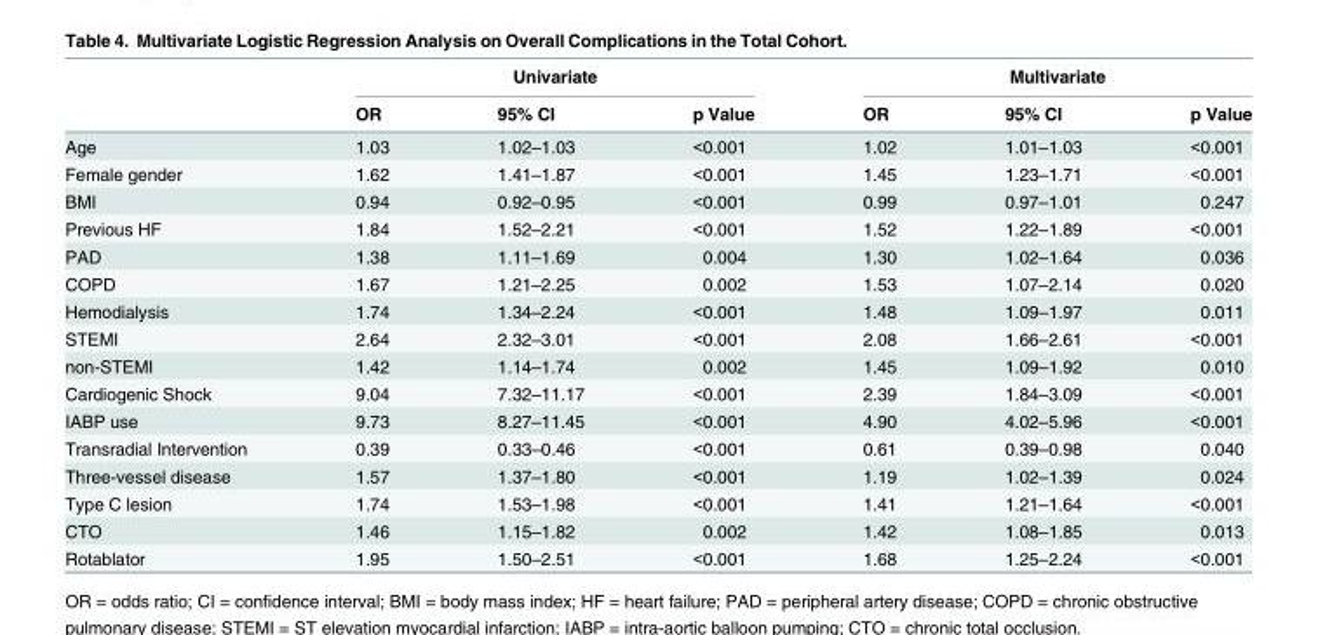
<table><thead><tr><td rowspan="2"></td><td colspan="3">Univariate</td><td colspan="3">Multivariate</td></tr><tr><td>OR</td><td>95% CI</td><td>p Value</td><td>OR</td><td>95% CI</td><td>p Value</td></tr></thead><tbody><tr><td>Age</td><td>1.03</td><td>1.02–1.03</td><td>&lt;0.001</td><td>1.02</td><td>1.01–1.03</td><td>&lt;0.001</td></tr><tr><td>Female gender</td><td>1.62</td><td>1.41–1.87</td><td>&lt;0.001</td><td>1.45</td><td>1.23–1.71</td><td>&lt;0.001</td></tr><tr><td>BMI</td><td>0.94</td><td>0.92–0.95</td><td>&lt;0.001</td><td>0.99</td><td>0.97–1.01</td><td>0.247</td></tr><tr><td>Previous HF</td><td>1.84</td><td>1.52–2.21</td><td>&lt;0.001</td><td>1.52</td><td>1.22–1.89</td><td>&lt;0.001</td></tr><tr><td>PAD</td><td>1.38</td><td>1.11–1.69</td><td>0.004</td><td>1.30</td><td>1.02–1.64</td><td>0.036</td></tr><tr><td>COPD</td><td>1.67</td><td>1.21–2.25</td><td>0.002</td><td>1.53</td><td>1.07–2.14</td><td>0.020</td></tr><tr><td>Hemodialysis</td><td>1.74</td><td>1.34–2.24</td><td>&lt;0.001</td><td>1.48</td><td>1.09–1.97</td><td>0.011</td></tr><tr><td>STEMI</td><td>2.64</td><td>2.32–3.01</td><td>&lt;0.001</td><td>2.08</td><td>1.66–2.61</td><td>&lt;0.001</td></tr><tr><td>non-STEMI</td><td>1.42</td><td>1.14–1.74</td><td>0.002</td><td>1.45</td><td>1.09–1.92</td><td>0.010</td></tr><tr><td>Cardiogenic Shock</td><td>9.04</td><td>7.32–11.17</td><td>&lt;0.001</td><td>2.39</td><td>1.84–3.09</td><td>&lt;0.001</td></tr><tr><td>IABP use</td><td>9.73</td><td>8.27–11.45</td><td>&lt;0.001</td><td>4.90</td><td>4.02–5.96</td><td>&lt;0.001</td></tr><tr><td>Transradial Intervention</td><td>0.39</td><td>0.33–0.46</td><td>&lt;0.001</td><td>0.61</td><td>0.39–0.98</td><td>0.040</td></tr><tr><td>Three-vessel disease</td><td>1.57</td><td>1.37–1.80</td><td>&lt;0.001</td><td>1.19</td><td>1.02–1.39</td><td>0.024</td></tr><tr><td>Type C lesion</td><td>1.74</td><td>1.53–1.98</td><td>&lt;0.001</td><td>1.41</td><td>1.21–1.64</td><td>&lt;0.001</td></tr><tr><td>CTO</td><td>1.46</td><td>1.15–1.82</td><td>0.002</td><td>1.42</td><td>1.08–1.85</td><td>0.013</td></tr><tr><td>Rotablator</td><td>1.95</td><td>1.50–2.51</td><td>&lt;0.001</td><td>1.68</td><td>1.25–2.24</td><td>&lt;0.001</td></tr></tbody></table>